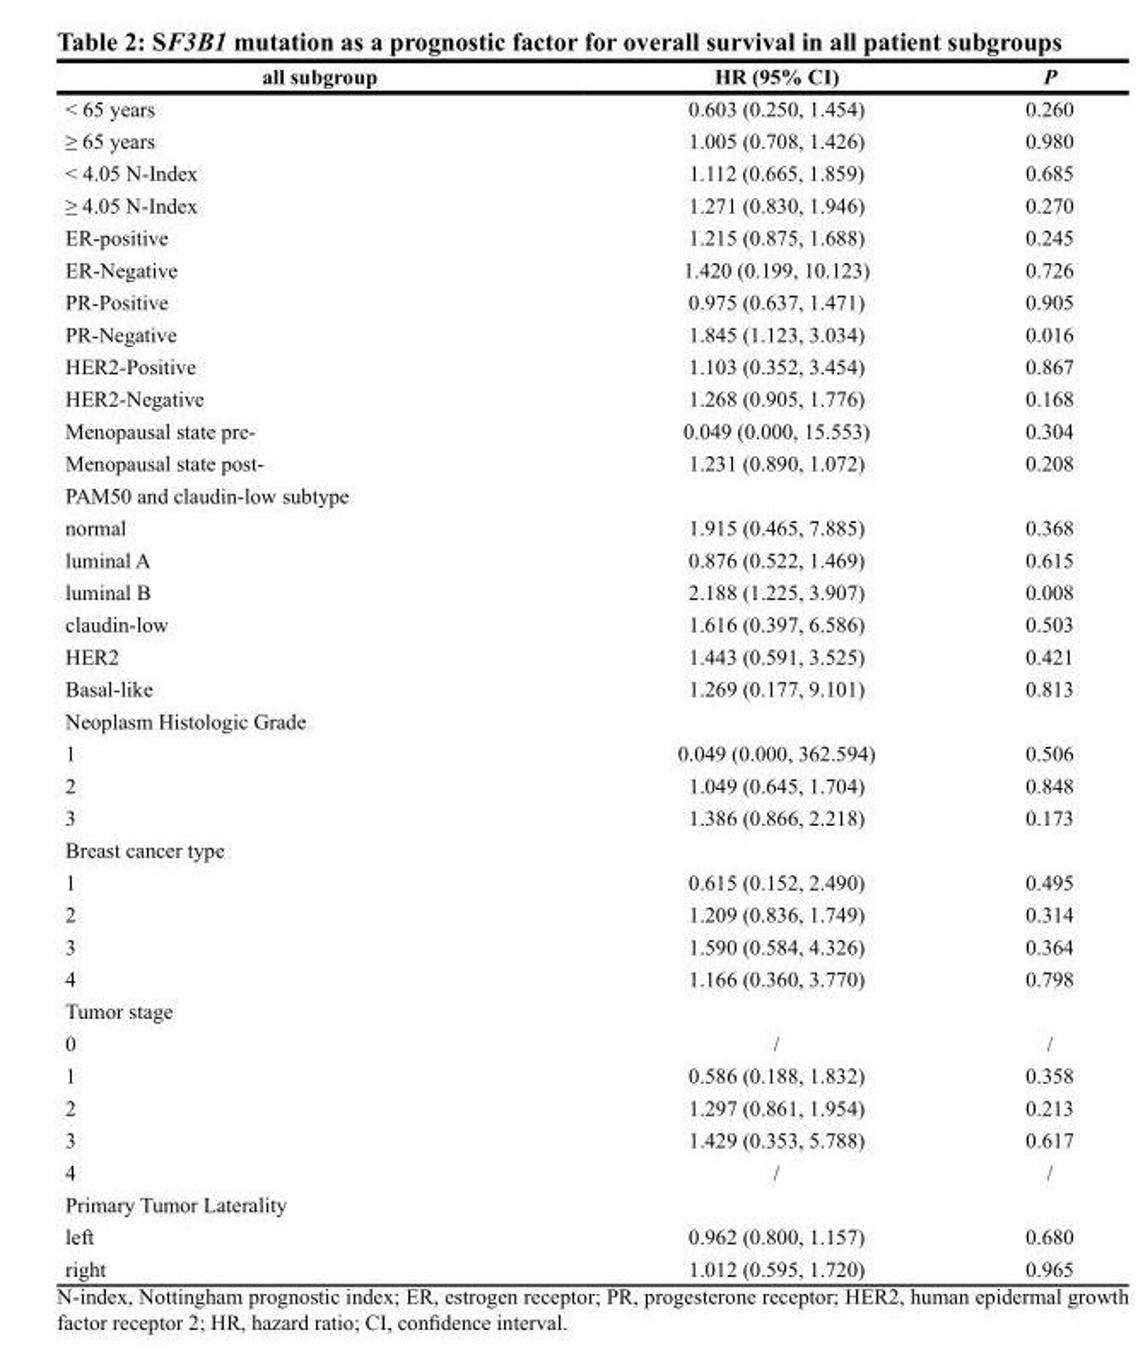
<table><thead><tr><td>all subgroup</td><td>HR (95% CI)</td><td>P</td></tr></thead><tbody><tr><td>&lt; 65 years</td><td>0.603 (0.250, 1.454)</td><td>0.260</td></tr><tr><td>≥ 65 years</td><td>1.005 (0.708, 1.426)</td><td>0.980</td></tr><tr><td>&lt; 4.05 N-Index</td><td>1.112 (0.665, 1.859)</td><td>0.685</td></tr><tr><td>≥ 4.05 N-Index</td><td>1.271 (0.830, 1.946)</td><td>0.270</td></tr><tr><td>ER-positive</td><td>1.215 (0.875, 1.688)</td><td>0.245</td></tr><tr><td>ER-Negative</td><td>1.420 (0.199, 10.123)</td><td>0.726</td></tr><tr><td>PR-Positive</td><td>0.975 (0.637, 1.471)</td><td>0.905</td></tr><tr><td>PR-Negative</td><td>1.845 (1.123, 3.034)</td><td>0.016</td></tr><tr><td>HER2-Positive</td><td>1.103 (0.352, 3.454)</td><td>0.867</td></tr><tr><td>HER2-Negative</td><td>1.268 (0.905, 1.776)</td><td>0.168</td></tr><tr><td>Menopausal state pre-</td><td>0.049 (0.000, 15.553)</td><td>0.304</td></tr><tr><td>Menopausal state post-</td><td>1.231 (0.890, 1.072)</td><td>0.208</td></tr><tr><td colspan="3">PAM50 and claudin-low subtype</td></tr><tr><td>normal</td><td>1.915 (0.465, 7.885)</td><td>0.368</td></tr><tr><td>luminal A</td><td>0.876 (0.522, 1.469)</td><td>0.615</td></tr><tr><td>luminal B</td><td>2.188 (1.225, 3.907)</td><td>0.008</td></tr><tr><td>claudin-low</td><td>1.616 (0.397, 6.586)</td><td>0.503</td></tr><tr><td>HER2</td><td>1.443 (0.591, 3.525)</td><td>0.421</td></tr><tr><td>Basal-like</td><td>1.269 (0.177, 9.101)</td><td>0.813</td></tr><tr><td colspan="3">Neoplasm Histologic Grade</td></tr><tr><td>1</td><td>0.049 (0.000, 362.594)</td><td>0.506</td></tr><tr><td>2</td><td>1.049 (0.645, 1.704)</td><td>0.848</td></tr><tr><td>3</td><td>1.386 (0.866, 2.218)</td><td>0.173</td></tr><tr><td colspan="3">Breast cancer type</td></tr><tr><td>1</td><td>0.615 (0.152, 2.490)</td><td>0.495</td></tr><tr><td>2</td><td>1.209 (0.836, 1.749)</td><td>0.314</td></tr><tr><td>3</td><td>1.590 (0.584, 4.326)</td><td>0.364</td></tr><tr><td>4</td><td>1.166 (0.360, 3.770)</td><td>0.798</td></tr><tr><td colspan="3">Tumor stage</td></tr><tr><td>0</td><td>/</td><td>/</td></tr><tr><td>1</td><td>0.586 (0.188, 1.832)</td><td>0.358</td></tr><tr><td>2</td><td>1.297 (0.861, 1.954)</td><td>0.213</td></tr><tr><td>3</td><td>1.429 (0.353, 5.788)</td><td>0.617</td></tr><tr><td>4</td><td>/</td><td>/</td></tr><tr><td colspan="3">Primary Tumor Laterality</td></tr><tr><td>left</td><td>0.962 (0.800, 1.157)</td><td>0.680</td></tr><tr><td>right</td><td>1.012 (0.595, 1.720)</td><td>0.965</td></tr></tbody></table>